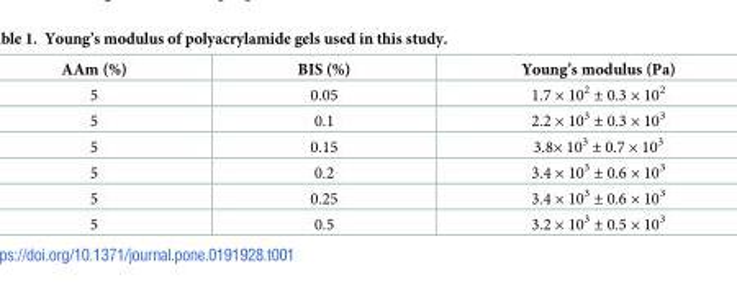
<table><thead><tr><td>AAm (%)</td><td>BIS (%)</td><td>Young’s modulus (Pa)</td></tr></thead><tbody><tr><td>5</td><td>0.05</td><td>1.7 × 10<sup>2</sup> ± 0.3 × 10<sup>2</sup></td></tr><tr><td>5</td><td>0.1</td><td>2.2 × 10<sup>3</sup> ± 0.3 × 10<sup>3</sup></td></tr><tr><td>5</td><td>0.15</td><td>3.8× 10<sup>3</sup> ± 0.7 × 10<sup>3</sup></td></tr><tr><td>5</td><td>0.2</td><td>3.4 × 10<sup>3</sup> ± 0.6 × 10<sup>3</sup></td></tr><tr><td>5</td><td>0.25</td><td>3.4 × 10<sup>3</sup> ± 0.6 × 10<sup>3</sup></td></tr><tr><td>5</td><td>0.5</td><td>3.2 × 10<sup>3</sup> ± 0.5 × 10<sup>3</sup></td></tr></tbody></table>